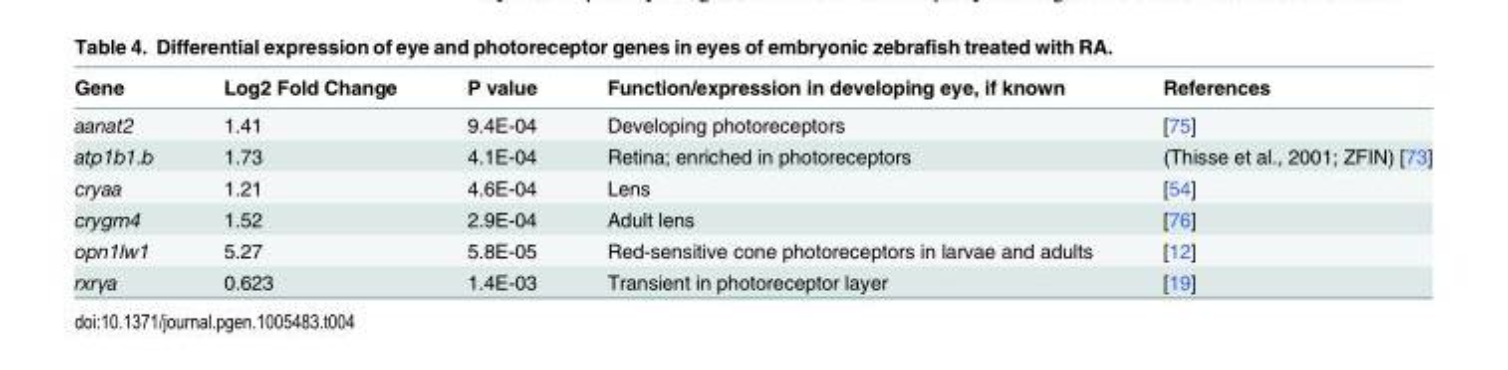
<table><thead><tr><td>Gene</td><td>Log2 Fold Change</td><td>P value</td><td>Function/expression in developing eye, if known</td><td>References</td></tr></thead><tbody><tr><td>aanat2</td><td>1.41</td><td>9.4E-04</td><td>Developing photoreceptors</td><td>[75]</td></tr><tr><td>atp1b1.b</td><td>1.73</td><td>4.1E-04</td><td>Retina; enriched in photoreceptors</td><td>(Thisse et al., 2001; ZFIN) [73]</td></tr><tr><td>cryaa</td><td>1.21</td><td>4.6E-04</td><td>Lens</td><td>[54]</td></tr><tr><td>crygm4</td><td>1.52</td><td>2.9E-04</td><td>Adult lens</td><td>[76]</td></tr><tr><td>opn1lw1</td><td>5.27</td><td>5.8E-05</td><td>Red-sensitive cone photoreceptors in larvae and adults</td><td>[12]</td></tr><tr><td>rxrγa</td><td>0.623</td><td>1.4E-03</td><td>Transient in photoreceptor layer</td><td>[19]</td></tr></tbody></table>